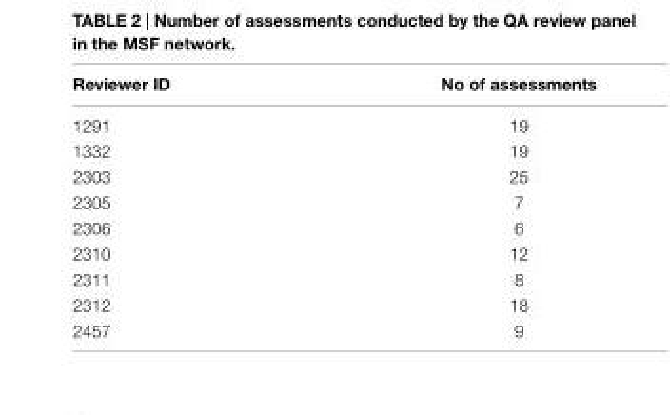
<table><thead><tr><td>reviewer iD</td><td>no of assessments</td></tr></thead><tbody><tr><td>1291</td><td>19</td></tr><tr><td>1332</td><td>19</td></tr><tr><td>2303</td><td>25</td></tr><tr><td>2305</td><td>7</td></tr><tr><td>2306</td><td>6</td></tr><tr><td>2310</td><td>12</td></tr><tr><td>2311</td><td>8</td></tr><tr><td>2312</td><td>18</td></tr><tr><td>2457</td><td>9</td></tr></tbody></table>